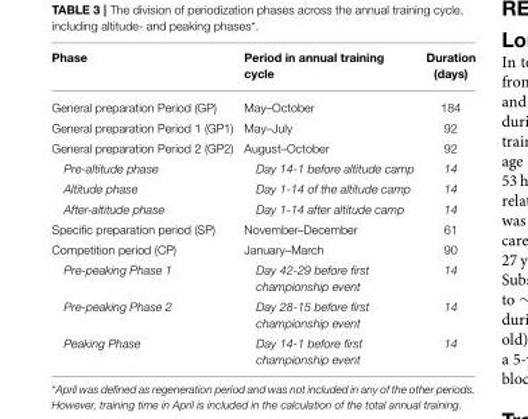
<table><thead><tr><td>Phase</td><td>Period in annual training cycle</td><td>Duration (days)</td></tr></thead><tbody><tr><td>General preparation Period (GP)</td><td>May–October</td><td>184</td></tr><tr><td>General preparation Period 1 (GP1)</td><td>May–July</td><td>92</td></tr><tr><td>General preparation Period 2 (GP2)</td><td>August–October</td><td>92</td></tr><tr><td>Pre-altitude phase</td><td>Day 14-1 before altitude camp</td><td>14</td></tr><tr><td>Altitude phase</td><td>Day 1-14 of the altitude camp</td><td>14</td></tr><tr><td>After-altitude phase</td><td>Day 1-14 after altitude camp</td><td>14</td></tr><tr><td>Specific preparation period (SP)</td><td>November–December</td><td>61</td></tr><tr><td>Competition period (CP)</td><td>January–March</td><td>90</td></tr><tr><td>Pre-peaking Phase 1</td><td>Day 42-29 before first championship event</td><td>14</td></tr><tr><td>Pre-peaking Phase 2</td><td>Day 28-15 before first championship event</td><td>14</td></tr><tr><td>Peaking Phase</td><td>Day 14-1 before first championship event</td><td>14</td></tr></tbody></table>